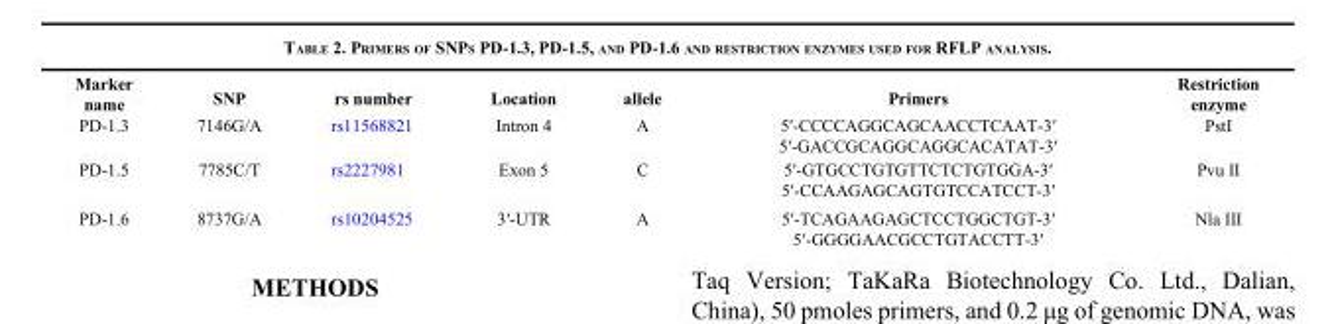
<table><thead><tr><td>Marker name</td><td>SNP</td><td>rs number</td><td>Location</td><td>allele</td><td>Primers</td><td>Restriction enzyme</td></tr></thead><tbody><tr><td rowspan="2">PD-1.3</td><td>7146G/A</td><td>rs11568821</td><td>Intron 4</td><td>A</td><td>5′-CCCCAGGCAGCAACCTCAAT-3′</td><td>PstI</td></tr><tr><td></td><td></td><td></td><td></td><td>5′-GACCGCAGGCAGGCACATAT-3′</td><td></td></tr><tr><td rowspan="2">PD-1.5</td><td>7785C/T</td><td>rs2227981</td><td>Exon 5</td><td>C</td><td>5′-GTGCCTGTGTTCTCTGTGGA-3′</td><td>Pvu II</td></tr><tr><td></td><td></td><td></td><td></td><td>5′-CCAAGAGCAGTGTCCATCCT-3′</td><td></td></tr><tr><td rowspan="2">PD-1.6</td><td>8737G/A</td><td>rs10204525</td><td>3′-UTR</td><td>A</td><td>5′-TCAGAAGAGCTCCTGGCTGT-3′</td><td>Nla III</td></tr><tr><td></td><td></td><td></td><td></td><td>5′-GGGGAACGCCTGTACCTT-3′</td><td></td></tr></tbody></table>